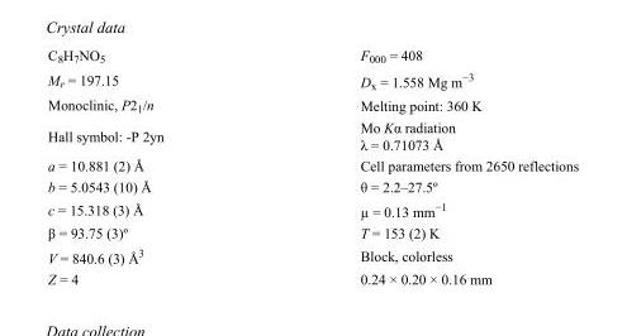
<table><tbody><tr><td>C<sub>8</sub>H<sub>7</sub>NO<sub>5</sub></td><td>F000 = 408</td></tr><tr><td>M<sub>r</sub> = 197.15</td><td>D<sub>x</sub> = 1.558 Mg m<sup>−3</sup></td></tr><tr><td>Monoclinic, P2<sub>1</sub>/n</td><td>Melting point: 360 K</td></tr><tr><td>Hall symbol: -P 2yn</td><td>Mo Kα radiation λ = 0.71073 Å</td></tr><tr><td>a = 10.881 (2) Å</td><td>Cell parameters from 2650 reflections</td></tr><tr><td>b = 5.0543 (10) Å</td><td>θ = 2.2–27.5º</td></tr><tr><td>c = 15.318 (3) Å</td><td>µ = 0.13 mm<sup>−1</sup></td></tr><tr><td>β = 93.75 (3)º</td><td>T = 153 (2) K</td></tr><tr><td>V = 840.6 (3) Å<sup>3</sup></td><td>Block, colorless</td></tr><tr><td>Z = 4</td><td>0.24 × 0.20 × 0.16 mm</td></tr></tbody></table>